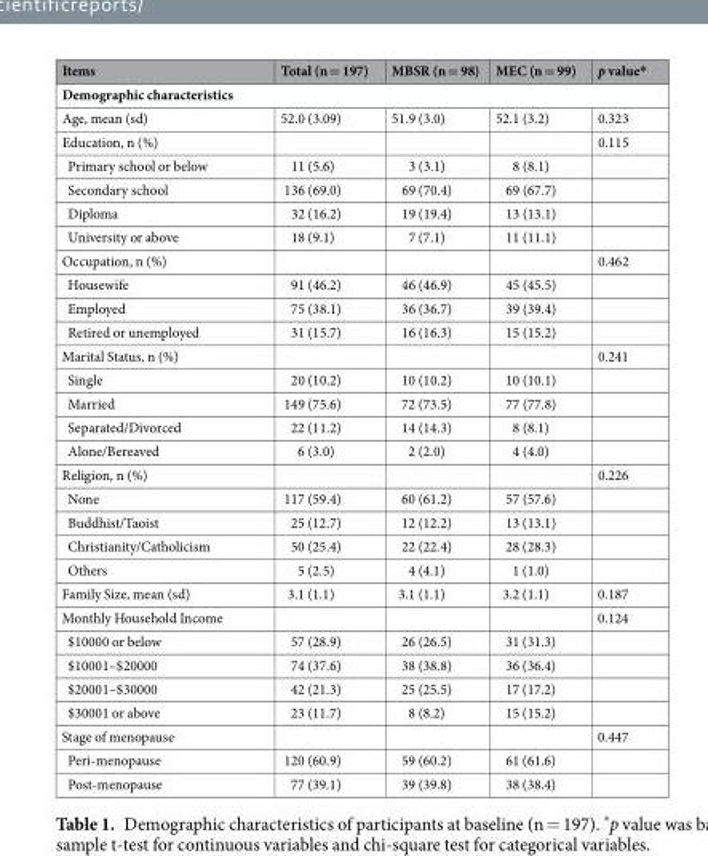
<table><thead><tr><td>Items</td><td>Total (n = 197)</td><td>MBSR (n = 98)</td><td>MEC (n = 99)</td><td>p value*</td></tr></thead><tbody><tr><td colspan="5">Demographic characteristics</td></tr><tr><td>Age, mean (sd)</td><td>52.0 (3.09)</td><td>51.9 (3.0)</td><td>52.1 (3.2)</td><td>0.323</td></tr><tr><td>Education, n (%)</td><td></td><td></td><td></td><td>0.115</td></tr><tr><td>Primary school or below</td><td>11 (5.6)</td><td>3 (3.1)</td><td>8 (8.1)</td><td></td></tr><tr><td>Secondary school</td><td>136 (69.0)</td><td>69 (70.4)</td><td>69 (67.7)</td><td></td></tr><tr><td>Diploma</td><td>32 (16.2)</td><td>19 (19.4)</td><td>13 (13.1)</td><td></td></tr><tr><td>University or above</td><td>18 (9.1)</td><td>7 (7.1)</td><td>11 (11.1)</td><td></td></tr><tr><td>Occupation, n (%)</td><td></td><td></td><td></td><td>0.462</td></tr><tr><td>Housewife</td><td>91 (46.2)</td><td>46 (46.9)</td><td>45 (45.5)</td><td></td></tr><tr><td>Employed</td><td>75 (38.1)</td><td>36 (36.7)</td><td>39 (39.4)</td><td></td></tr><tr><td>Retired or unemployed</td><td>31 (15.7)</td><td>16 (16.3)</td><td>15 (15.2)</td><td></td></tr><tr><td>Marital Status, n (%)</td><td></td><td></td><td></td><td>0.241</td></tr><tr><td>Single</td><td>20 (10.2)</td><td>10 (10.2)</td><td>10 (10.1)</td><td></td></tr><tr><td>Married</td><td>149 (75.6)</td><td>72 (73.5)</td><td>77 (77.8)</td><td></td></tr><tr><td>Separated/Divorced</td><td>22 (11.2)</td><td>14 (14.3)</td><td>8 (8.1)</td><td></td></tr><tr><td>Alone/Bereaved</td><td>6 (3.0)</td><td>2 (2.0)</td><td>4 (4.0)</td><td></td></tr><tr><td>Religion, n (%)</td><td></td><td></td><td></td><td>0.226</td></tr><tr><td>None</td><td>117 (59.4)</td><td>60 (61.2)</td><td>57 (57.6)</td><td></td></tr><tr><td>Buddhist/Taoist</td><td>25 (12.7)</td><td>12 (12.2)</td><td>13 (13.1)</td><td></td></tr><tr><td>Christianity/Catholicism</td><td>50 (25.4)</td><td>22 (22.4)</td><td>28 (28.3)</td><td></td></tr><tr><td>Others</td><td>5 (2.5)</td><td>4 (4.1)</td><td>1 (1.0)</td><td></td></tr><tr><td>Family Size, mean (sd)</td><td>3.1 (1.1)</td><td>3.1 (1.1)</td><td>3.2 (1.1)</td><td>0.187</td></tr><tr><td>Monthly Household Income</td><td></td><td></td><td></td><td>0.124</td></tr><tr><td>$10000 or below</td><td>57 (28.9)</td><td>26 (26.5)</td><td>31 (31.3)</td><td></td></tr><tr><td>$10001–$20000</td><td>74 (37.6)</td><td>38 (38.8)</td><td>36 (36.4)</td><td></td></tr><tr><td>$20001–$30000</td><td>42 (21.3)</td><td>25 (25.5)</td><td>17 (17.2)</td><td></td></tr><tr><td>$30001 or above</td><td>23 (11.7)</td><td>8 (8.2)</td><td>15 (15.2)</td><td></td></tr><tr><td>Stage of menopause</td><td></td><td></td><td></td><td>0.447</td></tr><tr><td>Peri-menopause</td><td>120 (60.9)</td><td>59 (60.2)</td><td>61 (61.6)</td><td></td></tr><tr><td>Post-menopause</td><td>77 (39.1)</td><td>39 (39.8)</td><td>38 (38.4)</td><td></td></tr></tbody></table>